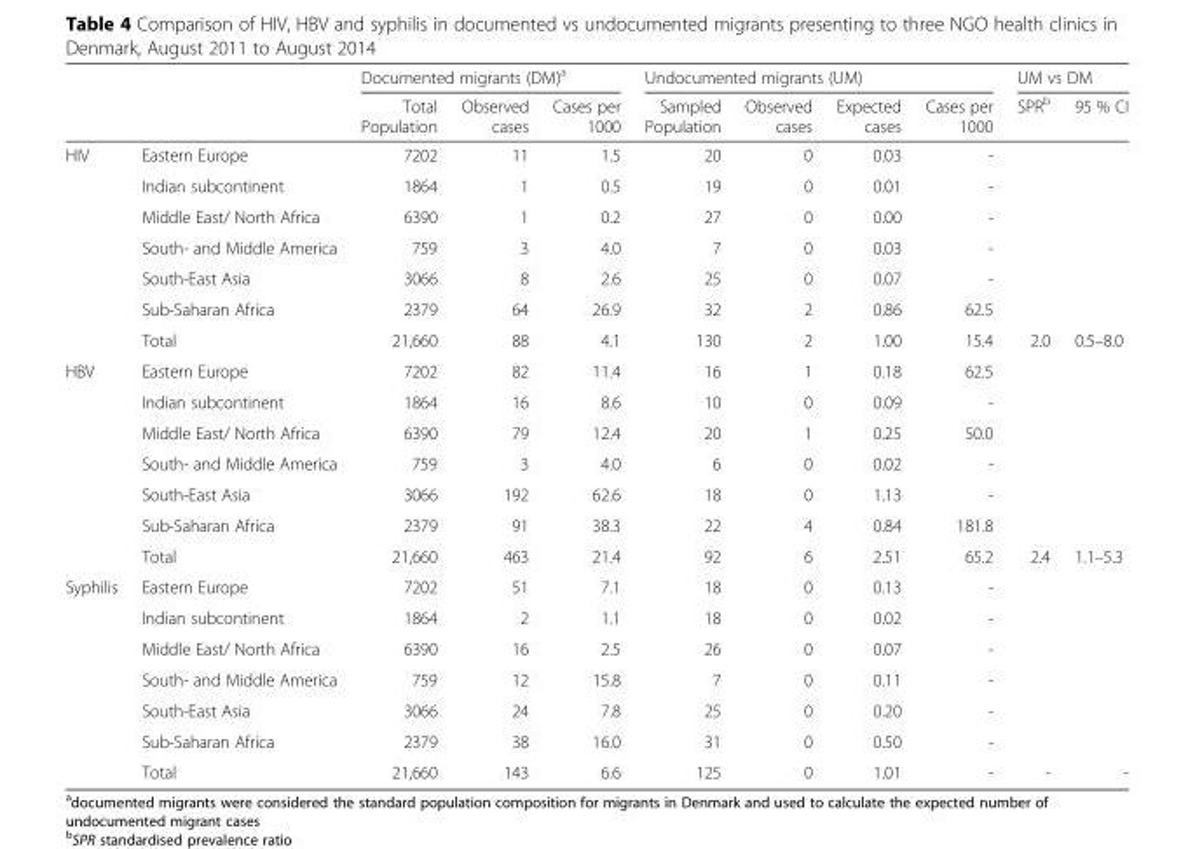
<table><thead><tr><td rowspan="2"></td><td rowspan="2"></td><td colspan="3">Documented migrants (DM)<sup>a</sup></td><td colspan="4">Undocumented migrants (UM)</td><td colspan="2">UM vs DM</td></tr><tr><td>Total Population</td><td>Observed cases</td><td>Cases per 1000</td><td>Sampled Population</td><td>Observed cases</td><td>Expected cases</td><td>Cases per 1000</td><td>SPR<sup>b</sup></td><td>95 % CI</td></tr></thead><tbody><tr><td rowspan="7">HIV</td><td>Eastern Europe</td><td>7202</td><td>11</td><td>1.5</td><td>20</td><td>0</td><td>0.03</td><td>-</td><td rowspan="6"></td><td rowspan="6"></td></tr><tr><td>Indian subcontinent</td><td>1864</td><td>1</td><td>0.5</td><td>19</td><td>0</td><td>0.01</td><td>-</td></tr><tr><td>Middle East/ North Africa</td><td>6390</td><td>1</td><td>0.2</td><td>27</td><td>0</td><td>0.00</td><td>-</td></tr><tr><td>South- and Middle America</td><td>759</td><td>3</td><td>4.0</td><td>7</td><td>0</td><td>0.03</td><td>-</td></tr><tr><td>South-East Asia</td><td>3066</td><td>8</td><td>2.6</td><td>25</td><td>0</td><td>0.07</td><td>-</td></tr><tr><td>Sub-Saharan Africa</td><td>2379</td><td>64</td><td>26.9</td><td>32</td><td>2</td><td>0.86</td><td>62.5</td></tr><tr><td>Total</td><td>21,660</td><td>88</td><td>4.1</td><td>130</td><td>2</td><td>1.00</td><td>15.4</td><td>2.0</td><td>0.5–8.0</td></tr><tr><td rowspan="7">HBV</td><td>Eastern Europe</td><td>7202</td><td>82</td><td>11.4</td><td>16</td><td>1</td><td>0.18</td><td>62.5</td><td rowspan="6"></td><td rowspan="6"></td></tr><tr><td>Indian subcontinent</td><td>1864</td><td>16</td><td>8.6</td><td>10</td><td>0</td><td>0.09</td><td>-</td></tr><tr><td>Middle East/ North Africa</td><td>6390</td><td>79</td><td>12.4</td><td>20</td><td>1</td><td>0.25</td><td>50.0</td></tr><tr><td>South- and Middle America</td><td>759</td><td>3</td><td>4.0</td><td>6</td><td>0</td><td>0.02</td><td>-</td></tr><tr><td>South-East Asia</td><td>3066</td><td>192</td><td>62.6</td><td>18</td><td>0</td><td>1.13</td><td>-</td></tr><tr><td>Sub-Saharan Africa</td><td>2379</td><td>91</td><td>38.3</td><td>22</td><td>4</td><td>0.84</td><td>181.8</td></tr><tr><td>Total</td><td>21,660</td><td>463</td><td>21.4</td><td>92</td><td>6</td><td>2.51</td><td>65.2</td><td>2.4</td><td>1.1–5.3</td></tr><tr><td rowspan="7">Syphilis</td><td>Eastern Europe</td><td>7202</td><td>51</td><td>7.1</td><td>18</td><td>0</td><td>0.13</td><td>-</td><td rowspan="6"></td><td rowspan="6"></td></tr><tr><td>Indian subcontinent</td><td>1864</td><td>2</td><td>1.1</td><td>18</td><td>0</td><td>0.02</td><td>-</td></tr><tr><td>Middle East/ North Africa</td><td>6390</td><td>16</td><td>2.5</td><td>26</td><td>0</td><td>0.07</td><td>-</td></tr><tr><td>South- and Middle America</td><td>759</td><td>12</td><td>15.8</td><td>7</td><td>0</td><td>0.11</td><td>-</td></tr><tr><td>South-East Asia</td><td>3066</td><td>24</td><td>7.8</td><td>25</td><td>0</td><td>0.20</td><td>-</td></tr><tr><td>Sub-Saharan Africa</td><td>2379</td><td>38</td><td>16.0</td><td>31</td><td>0</td><td>0.50</td><td>-</td></tr><tr><td>Total</td><td>21,660</td><td>143</td><td>6.6</td><td>125</td><td>0</td><td>1.01</td><td>-</td><td>-</td><td>-</td></tr></tbody></table>